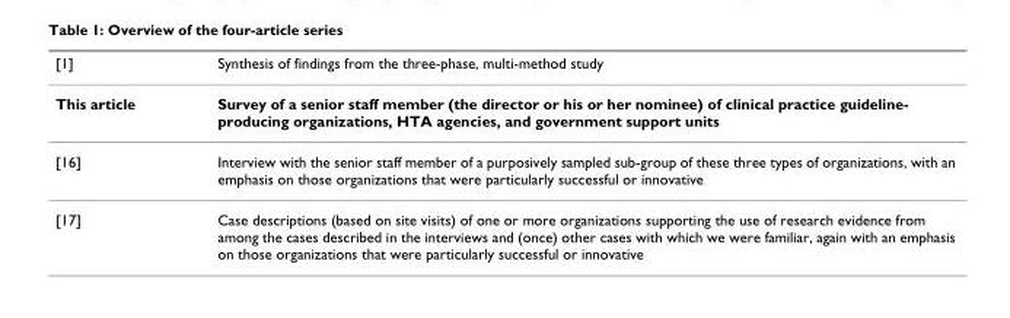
<table><thead><tr><td>[1]</td><td>Synthesis of findings from the three-phase, multi-method study</td></tr></thead><tbody><tr><td>This article</td><td>Survey of a senior staff member (the director or his or her nominee) of clinical practice guideline- producing organizations, HTA agencies, and government support units</td></tr><tr><td>[16]</td><td>Interview with the senior staff member of a purposively sampled sub-group of these three types of organizations, with an emphasis on those organizations that were particularly successful or innovative</td></tr><tr><td>[17]</td><td>Case descriptions (based on site visits) of one or more organizations supporting the use of research evidence from among the cases described in the interviews and (once) other cases with which we were familiar, again with an emphasis on those organizations that were particularly successful or innovative</td></tr></tbody></table>